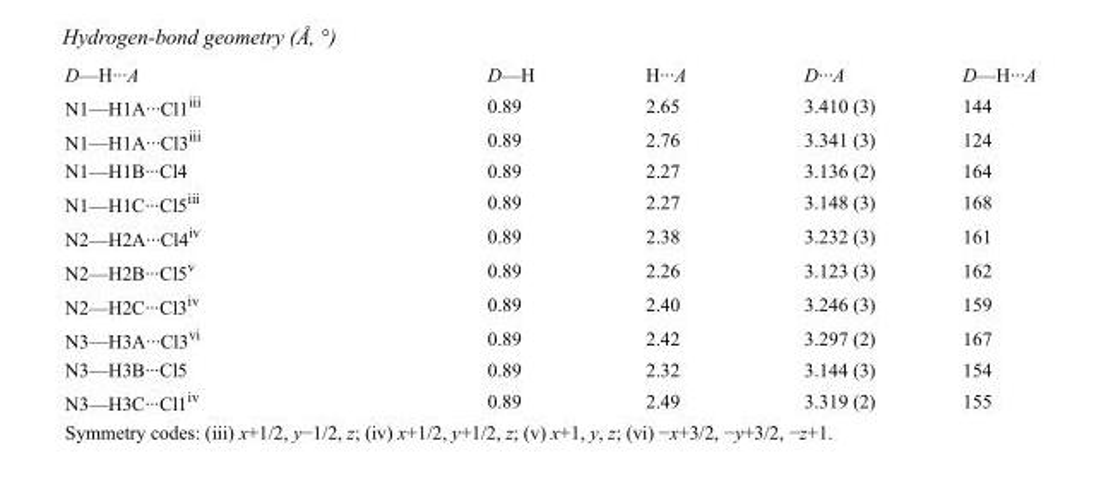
<table><tbody><tr><td>D—H···A</td><td>D—H</td><td>H···A</td><td>D···A</td><td>D—H···A</td></tr><tr><td>N1—H1A···Cl1<sup>iii</sup></td><td>0.89</td><td>2.65</td><td>3.410 (3)</td><td>144</td></tr><tr><td>N1—H1A···Cl3<sup>iii</sup></td><td>0.89</td><td>2.76</td><td>3.341 (3)</td><td>124</td></tr><tr><td>N1—H1B···Cl4</td><td>0.89</td><td>2.27</td><td>3.136 (2)</td><td>164</td></tr><tr><td>N1—H1C···Cl5<sup>iii</sup></td><td>0.89</td><td>2.27</td><td>3.148 (3)</td><td>168</td></tr><tr><td>N2—H2A···Cl4<sup>iv</sup></td><td>0.89</td><td>2.38</td><td>3.232 (3)</td><td>161</td></tr><tr><td>N2—H2B···Cl5<sup>v</sup></td><td>0.89</td><td>2.26</td><td>3.123 (3)</td><td>162</td></tr><tr><td>N2—H2C···Cl3<sup>iv</sup></td><td>0.89</td><td>2.40</td><td>3.246 (3)</td><td>159</td></tr><tr><td>N3—H3A···Cl3<sup>vi</sup></td><td>0.89</td><td>2.42</td><td>3.297 (2)</td><td>167</td></tr><tr><td>N3—H3B···Cl5</td><td>0.89</td><td>2.32</td><td>3.144 (3)</td><td>154</td></tr><tr><td>N3—H3C···Cl1<sup>iv</sup></td><td>0.89</td><td>2.49</td><td>3.319 (2)</td><td>155</td></tr></tbody></table>